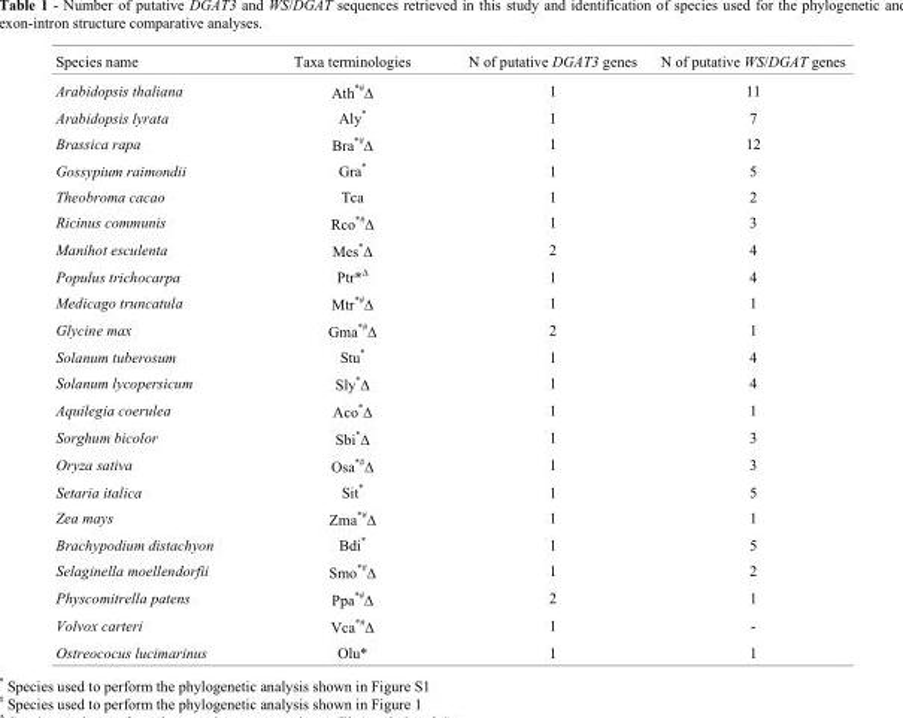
<table><thead><tr><td>Species name</td><td>Taxa terminologies</td><td>N of putative DGAT3 genes</td><td>N of putative WS/DGAT genes</td></tr></thead><tbody><tr><td>Arabidopsis thaliana</td><td>Ath*#Δ</td><td>1</td><td>11</td></tr><tr><td>Arabidopsis lyrata</td><td>Aly*</td><td>1</td><td>7</td></tr><tr><td>Brassica rapa</td><td>Bra*#Δ</td><td>1</td><td>12</td></tr><tr><td>Gossypium raimondii</td><td>Gra*</td><td>1</td><td>5</td></tr><tr><td>Theobroma cacao</td><td>Tca</td><td>1</td><td>2</td></tr><tr><td>Ricinus communis</td><td>Rco*#Δ</td><td>1</td><td>3</td></tr><tr><td>Manihot esculenta</td><td>Mes*Δ</td><td>2</td><td>4</td></tr><tr><td>Populus trichocarpa</td><td>Ptr*Δ</td><td>1</td><td>4</td></tr><tr><td>Medicago truncatula</td><td>Mtr*#Δ</td><td>1</td><td>1</td></tr><tr><td>Glycine max</td><td>Gma*#Δ</td><td>2</td><td>1</td></tr><tr><td>Solanum tuberosum</td><td>Stu*</td><td>1</td><td>4</td></tr><tr><td>Solanum lycopersicum</td><td>Sly*Δ</td><td>1</td><td>4</td></tr><tr><td>Aquilegia coerulea</td><td>Aco*Δ</td><td>1</td><td>1</td></tr><tr><td>Sorghum bicolor</td><td>Sbi*Δ</td><td>1</td><td>3</td></tr><tr><td>Oryza sativa</td><td>Osa*#Δ</td><td>1</td><td>3</td></tr><tr><td>Setaria italica</td><td>Sit*</td><td>1</td><td>5</td></tr><tr><td>Zea mays</td><td>Zma*#Δ</td><td>1</td><td>1</td></tr><tr><td>Brachypodium distachyon</td><td>Bdi*</td><td>1</td><td>5</td></tr><tr><td>Selaginella moellendorfii</td><td>Smo*#Δ</td><td>1</td><td>2</td></tr><tr><td>Physcomitrella patens</td><td>Ppa*#Δ</td><td>2</td><td>1</td></tr><tr><td>Volvox carteri</td><td>Vca*#Δ</td><td>1</td><td>-</td></tr><tr><td>Ostreococus lucimarinus</td><td>Olu*</td><td>1</td><td>1</td></tr></tbody></table>